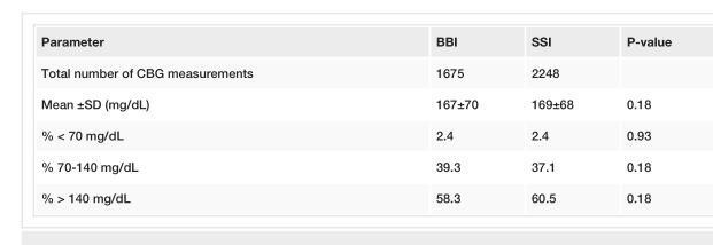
<table><tbody><tr><td>Parameter</td><td>BBI</td><td>SSI</td><td>P-value</td></tr><tr><td>Total number of CBG measurements</td><td>1675</td><td>2248</td><td></td></tr><tr><td>Mean ±SD (mg/dL)</td><td>167±70</td><td>169±68</td><td>0.18</td></tr><tr><td>% &lt; 70 mg/dL</td><td>2.4</td><td>2.4</td><td>0.93</td></tr><tr><td>% 70-140 mg/dL</td><td>39.3</td><td>37.1</td><td>0.18</td></tr><tr><td>% &gt; 140 mg/dL</td><td>58.3</td><td>60.5</td><td>0.18</td></tr></tbody></table>